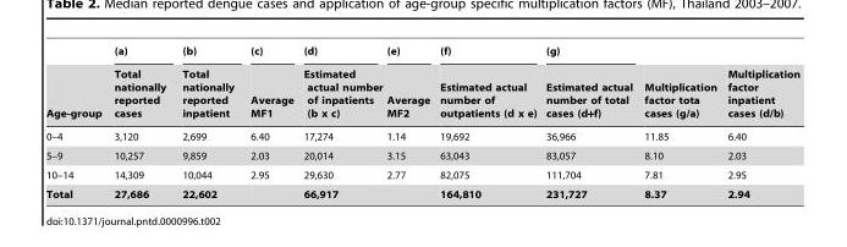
<table><thead><tr><td rowspan="2">Age-group</td><td rowspan="2">(a) Total nationally reported cases</td><td rowspan="2">(b) Total nationally reported inpatient</td><td rowspan="2">(c) Average MF1</td><td rowspan="2">(d) Estimated actual number of inpatients (b x c)</td><td rowspan="2">(e) Average MF2</td><td rowspan="2">(f) Estimated actual number of outpatients (d x e)</td><td rowspan="2">(g) Estimated actual number of total cases (d+f)</td><td rowspan="2">Multiplication factor tota cases (g/a)</td><td rowspan="2">Multiplication factor inpatient cases (d/b)</td></tr><tr></tr></thead><tbody><tr><td>0–4</td><td>3,120</td><td>2,699</td><td>6.40</td><td>17,274</td><td>1.14</td><td>19,692</td><td>36,966</td><td>11.85</td><td>6.40</td></tr><tr><td>5–9</td><td>10,257</td><td>9,859</td><td>2.03</td><td>20,014</td><td>3.15</td><td>63,043</td><td>83,057</td><td>8.10</td><td>2.03</td></tr><tr><td>10–14</td><td>14,309</td><td>10,044</td><td>2.95</td><td>29,630</td><td>2.77</td><td>82,075</td><td>111,704</td><td>7.81</td><td>2.95</td></tr><tr><td>Total</td><td>27,686</td><td>22,602</td><td></td><td>66,917</td><td></td><td>164,810</td><td>231,727</td><td>8.37</td><td>2.94</td></tr></tbody></table>